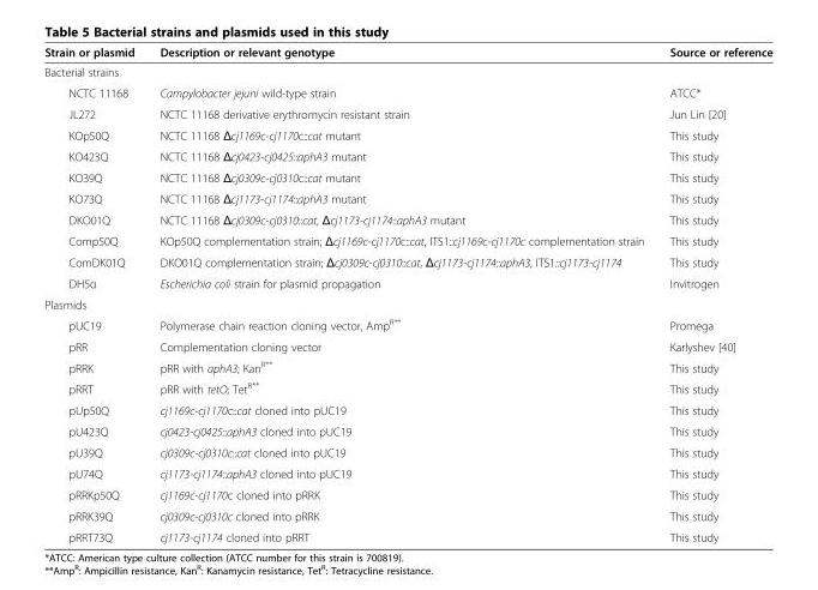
<table><thead><tr><td>Strain or plasmid</td><td>Description or relevant genotype</td><td>Source or reference</td></tr></thead><tbody><tr><td colspan="3">Bacterial strains</td></tr><tr><td>NCTC 11168</td><td>Campylobacter jejuni wild-type strain</td><td>ATCC*</td></tr><tr><td>JL272</td><td>NCTC 11168 derivative erythromycin resistant strain</td><td>Jun Lin [20]</td></tr><tr><td>KOp50Q</td><td>NCTC 11168 Δcj1169c-cj1170c::cat mutant</td><td>This study</td></tr><tr><td>KO423Q</td><td>NCTC 11168 Δcj0423-cj0425::aphA3 mutant</td><td>This study</td></tr><tr><td>KO39Q</td><td>NCTC 11168 Δcj0309c-cj0310c::cat mutant</td><td>This study</td></tr><tr><td>KO73Q</td><td>NCTC 11168 Δcj1173-cj1174::aphA3 mutant</td><td>This study</td></tr><tr><td>DKO01Q</td><td>NCTC 11168 Δcj0309c-cj0310::cat, Δcj1173-cj1174::aphA3 mutant</td><td>This study</td></tr><tr><td>Comp50Q</td><td>KOp50Q complementation strain; Δcj1169c-cj1170c::cat, ITS1::cj1169c-cj1170c complementation strain</td><td>This study</td></tr><tr><td>ComDK01Q</td><td>DKO01Q complementation strain; Δcj0309c-cj0310::cat, Δcj1173-cj1174::aphA3, ITS1::cj1173-cj1174</td><td>This study</td></tr><tr><td>DH5α</td><td>Escherichia coli strain for plasmid propagation</td><td>Invitrogen</td></tr><tr><td colspan="3">Plasmids</td></tr><tr><td>pUC19</td><td>Polymerase chain reaction cloning vector, Amp<sup>R**</sup></td><td>Promega</td></tr><tr><td>pRR</td><td>Complementation cloning vector</td><td>Karlyshev [40]</td></tr><tr><td>pRRK</td><td>pRR with aphA3; Kan<sup>R**</sup></td><td>This study</td></tr><tr><td>pRRT</td><td>pRR with tetO; Tet<sup>R**</sup></td><td>This study</td></tr><tr><td>pUp50Q</td><td>cj1169c-cj1170c::cat cloned into pUC19</td><td>This study</td></tr><tr><td>pU423Q</td><td>cj0423-cj0425::aphA3 cloned into pUC19</td><td>This study</td></tr><tr><td>pU39Q</td><td>cj0309c-cj0310c::cat cloned into pUC19</td><td>This study</td></tr><tr><td>pU74Q</td><td>cj1173-cj1174::aphA3 cloned into pUC19</td><td>This study</td></tr><tr><td>pRRKp50Q</td><td>cj1169c-cj1170c cloned into pRRK</td><td>This study</td></tr><tr><td>pRRK39Q</td><td>cj0309c-cj0310c cloned into pRRK</td><td>This study</td></tr><tr><td>pRRT73Q</td><td>cj1173-cj1174 cloned into pRRT</td><td>This study</td></tr></tbody></table>